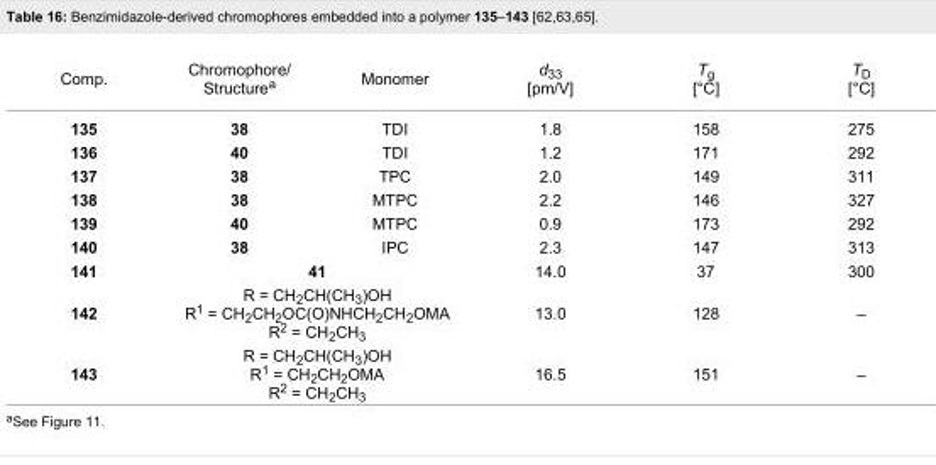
<table><tbody><tr><td>Comp.</td><td>Chromophore/ Structure<sup>a</sup></td><td>Monomer</td><td>d<sub>33</sub> [pm/V]</td><td>T<sub>g</sub> [°C]</td><td>T<sub>D</sub> [°C]</td></tr><tr><td>135</td><td>38</td><td>TDI</td><td>1.8</td><td>158</td><td>275</td></tr><tr><td>136</td><td>40</td><td>TDI</td><td>1.2</td><td>171</td><td>292</td></tr><tr><td>137</td><td>38</td><td>TPC</td><td>2.0</td><td>149</td><td>311</td></tr><tr><td>138</td><td>38</td><td>MTPC</td><td>2.2</td><td>146</td><td>327</td></tr><tr><td>139</td><td>40</td><td>MTPC</td><td>0.9</td><td>173</td><td>292</td></tr><tr><td>140</td><td>38</td><td>IPC</td><td>2.3</td><td>147</td><td>313</td></tr><tr><td>141</td><td colspan="2">41</td><td>14.0</td><td>37</td><td>300</td></tr><tr><td>142</td><td colspan="2">R = CH<sub>2</sub>CH(CH<sub>3</sub>)OH R<sup>1</sup> = CH<sub>2</sub>CH<sub>2</sub>OC(O)NHCH<sub>2</sub>CH<sub>2</sub>OMA R<sup>2</sup> = CH<sub>2</sub>CH<sub>3</sub></td><td>13.0</td><td>128</td><td>–</td></tr><tr><td>143</td><td colspan="2">R = CH<sub>2</sub>CH(CH<sub>3</sub>)OH R<sup>1</sup> = CH<sub>2</sub>CH<sub>2</sub>OMA R<sup>2</sup> = CH<sub>2</sub>CH<sub>3</sub></td><td>16.5</td><td>151</td><td>–</td></tr></tbody></table>